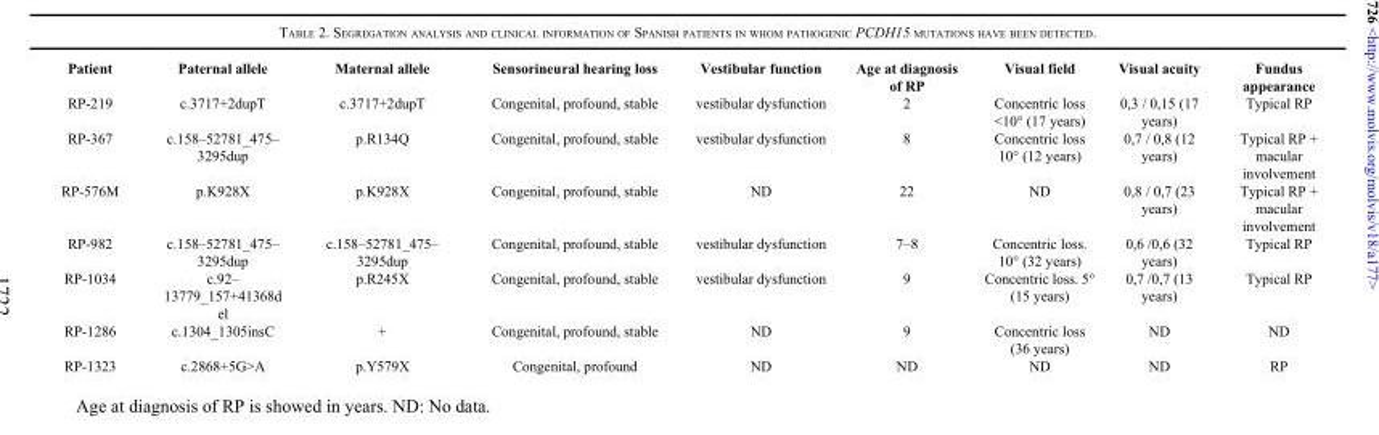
<table><thead><tr><td>Patient</td><td>Paternal allele</td><td>Maternal allele</td><td>Sensorineural hearing loss</td><td>Vestibular function</td><td>Age at diagnosis of RP</td><td>Visual field</td><td>Visual acuity</td><td>Fundus appearance</td></tr></thead><tbody><tr><td>RP-219</td><td>c.3717+2dupT</td><td>c.3717+2dupT</td><td>Congenital, profound, stable</td><td>vestibular dysfunction</td><td>2</td><td>Concentric loss &lt;10° (17 years)</td><td>0,3 / 0,15 (17 years)</td><td>Typical RP</td></tr><tr><td>RP-367</td><td>c.158–52781_475– 3295dup</td><td>p.R134Q</td><td>Congenital, profound, stable</td><td>vestibular dysfunction</td><td>8</td><td>Concentric loss 10° (12 years)</td><td>0,7 / 0,8 (12 years)</td><td>Typical RP + macular involvement</td></tr><tr><td>RP-576M</td><td>p.K928X</td><td>p.K928X</td><td>Congenital, profound, stable</td><td>ND</td><td>22</td><td>ND</td><td>0,8 / 0,7 (23 years)</td><td>Typical RP + macular involvement</td></tr><tr><td>RP-982</td><td>c.158–52781_475– 3295dup</td><td>c.158–52781_475– 3295dup</td><td>Congenital, profound, stable</td><td>vestibular dysfunction</td><td>7–8</td><td>Concentric loss. 10° (32 years)</td><td>0,6 /0,6 (32 years)</td><td>Typical RP</td></tr><tr><td>RP-1034</td><td>c.92– 13779_157+41368d el</td><td>p.R245X</td><td>Congenital, profound, stable</td><td>vestibular dysfunction</td><td>9</td><td>Concentric loss. 5° (15 years)</td><td>0,7 /0,7 (13 years)</td><td>Typical RP</td></tr><tr><td>RP-1286</td><td>c.1304_1305insC</td><td>+</td><td>Congenital, profound, stable</td><td>ND</td><td>9</td><td>Concentric loss (36 years)</td><td>ND</td><td>ND</td></tr><tr><td>RP-1323</td><td>c.2868+5G&gt;A</td><td>p.Y579X</td><td>Congenital, profound</td><td>ND</td><td>ND</td><td>ND</td><td>ND</td><td>RP</td></tr></tbody></table>